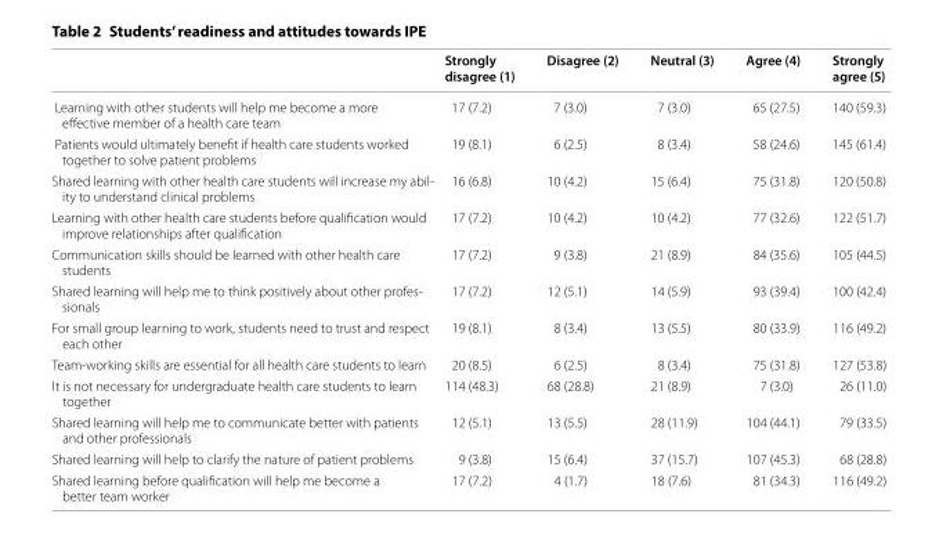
<table><thead><tr><td></td><td>Strongly disagree (1)</td><td>Disagree (2)</td><td>Neutral (3)</td><td>Agree (4)</td><td>Strongly agree (5)</td></tr></thead><tbody><tr><td>Learning with other students will help me become a more effective member of a health care team</td><td>17 (7.2)</td><td>7 (3.0)</td><td>7 (3.0)</td><td>65 (27.5)</td><td>140 (59.3)</td></tr><tr><td>Patients would ultimately benefit if health care students worked together to solve patient problems</td><td>19 (8.1)</td><td>6 (2.5)</td><td>8 (3.4)</td><td>58 (24.6)</td><td>145 (61.4)</td></tr><tr><td>Shared learning with other health care students will increase my abil‑ ity to understand clinical problems</td><td>16 (6.8)</td><td>10 (4.2)</td><td>15 (6.4)</td><td>75 (31.8)</td><td>120 (50.8)</td></tr><tr><td>Learning with other health care students before qualification would improve relationships after qualification</td><td>17 (7.2)</td><td>10 (4.2)</td><td>10 (4.2)</td><td>77 (32.6)</td><td>122 (51.7)</td></tr><tr><td>Communication skills should be learned with other health care students</td><td>17 (7.2)</td><td>9 (3.8)</td><td>21 (8.9)</td><td>84 (35.6)</td><td>105 (44.5)</td></tr><tr><td>Shared learning will help me to think positively about other profes‑ sionals</td><td>17 (7.2)</td><td>12 (5.1)</td><td>14 (5.9)</td><td>93 (39.4)</td><td>100 (42.4)</td></tr><tr><td>For small group learning to work, students need to trust and respect each other</td><td>19 (8.1)</td><td>8 (3.4)</td><td>13 (5.5)</td><td>80 (33.9)</td><td>116 (49.2)</td></tr><tr><td>Team‑working skills are essential for all health care students to learn</td><td>20 (8.5)</td><td>6 (2.5)</td><td>8 (3.4)</td><td>75 (31.8)</td><td>127 (53.8)</td></tr><tr><td>It is not necessary for undergraduate health care students to learn together</td><td>114 (48.3)</td><td>68 (28.8)</td><td>21 (8.9)</td><td>7 (3.0)</td><td>26 (11.0)</td></tr><tr><td>Shared learning will help me to communicate better with patients and other professionals</td><td>12 (5.1)</td><td>13 (5.5)</td><td>28 (11.9)</td><td>104 (44.1)</td><td>79 (33.5)</td></tr><tr><td>Shared learning will help to clarify the nature of patient problems</td><td>9 (3.8)</td><td>15 (6.4)</td><td>37 (15.7)</td><td>107 (45.3)</td><td>68 (28.8)</td></tr><tr><td>Shared learning before qualification will help me become a better team worker</td><td>17 (7.2)</td><td>4 (1.7)</td><td>18 (7.6)</td><td>81 (34.3)</td><td>116 (49.2)</td></tr></tbody></table>